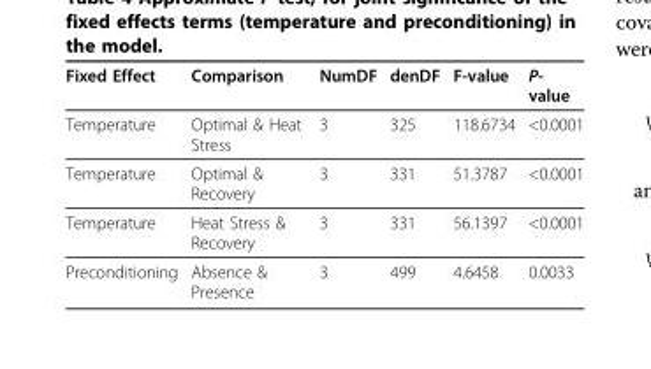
<table><thead><tr><td>Fixed Effect</td><td>Comparison</td><td>NumDF</td><td>denDF</td><td>F-value</td><td>P- value</td></tr></thead><tbody><tr><td>Temperature</td><td>Optimal &amp; Heat Stress</td><td>3</td><td>325</td><td>118.6734</td><td>&lt;0.0001</td></tr><tr><td>Temperature</td><td>Optimal &amp; Recovery</td><td>3</td><td>331</td><td>51.3787</td><td>&lt;0.0001</td></tr><tr><td>Temperature</td><td>Heat Stress &amp; Recovery</td><td>3</td><td>331</td><td>56.1397</td><td>&lt;0.0001</td></tr><tr><td>Preconditioning</td><td>Absence &amp; Presence</td><td>3</td><td>499</td><td>4.6458</td><td>0.0033</td></tr></tbody></table>